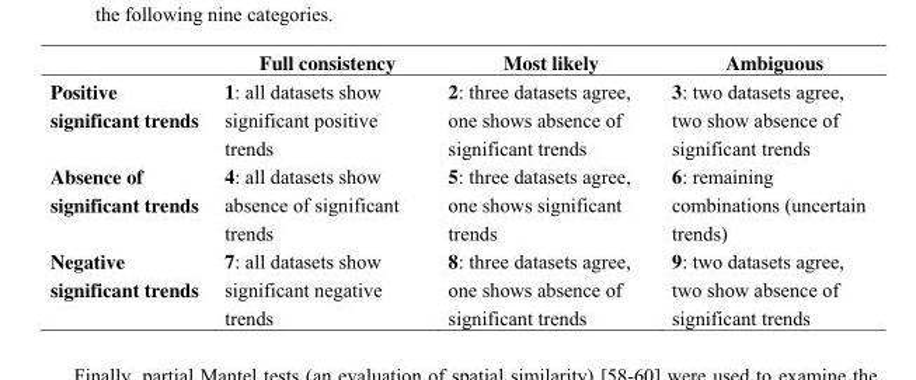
<table><thead><tr><td></td><td>Full consistency</td><td>Most likely</td><td>Ambiguous</td></tr></thead><tbody><tr><td>Positive significant trends</td><td>1: all datasets show significant positive trends</td><td>2: three datasets agree, one shows absence of significant trends</td><td>3: two datasets agree, two show absence of significant trends</td></tr><tr><td>Absence of significant trends</td><td>4: all datasets show absence of significant trends</td><td>5: three datasets agree, one shows significant trends</td><td>6: remaining combinations (uncertain trends)</td></tr><tr><td>Negative significant trends</td><td>7: all datasets show significant negative trends</td><td>8: three datasets agree, one shows absence of significant trends</td><td>9: two datasets agree, two show absence of significant trends</td></tr></tbody></table>